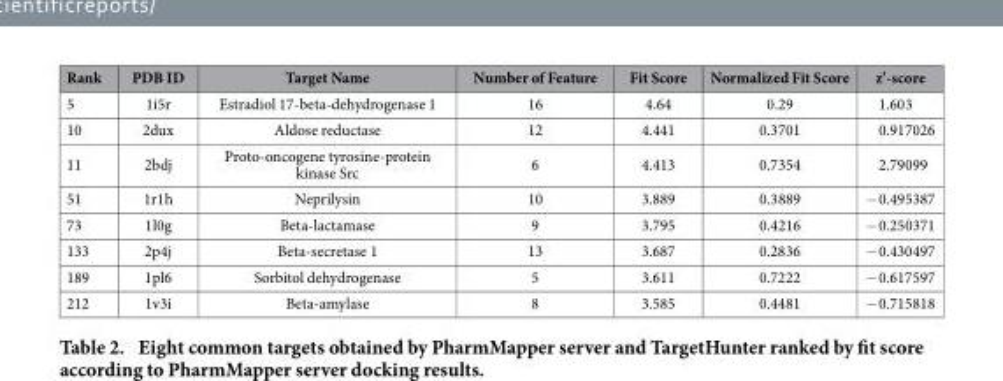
<table><thead><tr><td>Rank</td><td>PDB ID</td><td>Target Name</td><td>Number of Feature</td><td>Fit Score</td><td>Normalized Fit Score</td><td>z’-score</td></tr></thead><tbody><tr><td>5</td><td>1i5r</td><td>Estradiol 17-beta-dehydrogenase 1</td><td>16</td><td>4.64</td><td>0.29</td><td>1.603</td></tr><tr><td>10</td><td>2dux</td><td>Aldose reductase</td><td>12</td><td>4.441</td><td>0.3701</td><td>0.917026</td></tr><tr><td>11</td><td>2bdj</td><td>Proto-oncogene tyrosine-protein kinase Src</td><td>6</td><td>4.413</td><td>0.7354</td><td>2.79099</td></tr><tr><td>51</td><td>1r1h</td><td>Neprilysin</td><td>10</td><td>3.889</td><td>0.3889</td><td>− 0.495387</td></tr><tr><td>73</td><td>1l0g</td><td>Beta-lactamase</td><td>9</td><td>3.795</td><td>0.4216</td><td>− 0.250371</td></tr><tr><td>133</td><td>2p4j</td><td>Beta-secretase 1</td><td>13</td><td>3.687</td><td>0.2836</td><td>− 0.430497</td></tr><tr><td>189</td><td>1pl6</td><td>Sorbitol dehydrogenase</td><td>5</td><td>3.611</td><td>0.7222</td><td>− 0.617597</td></tr><tr><td>212</td><td>1v3i</td><td>Beta-amylase</td><td>8</td><td>3.585</td><td>0.4481</td><td>− 0.715818</td></tr></tbody></table>